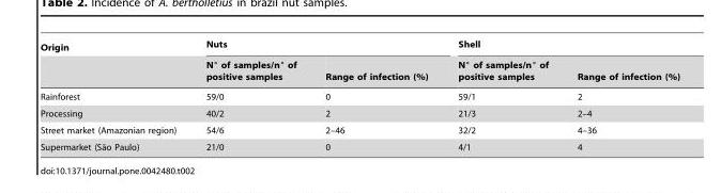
<table><thead><tr><td rowspan="2">Origin</td><td colspan="2">Nuts</td><td colspan="2">Shell</td></tr><tr><td>N° of samples/n° of positive samples</td><td>Range of infection (%)</td><td>N° of samples/n° of positive samples</td><td>Range of infection (%)</td></tr></thead><tbody><tr><td>Rainforest</td><td>59/0</td><td>0</td><td>59/1</td><td>2</td></tr><tr><td>Processing</td><td>40/2</td><td>2</td><td>21/3</td><td>2–4</td></tr><tr><td>Street market (Amazonian region)</td><td>54/6</td><td>2–46</td><td>32/2</td><td>4–36</td></tr><tr><td>Supermarket (Sa˜o Paulo)</td><td>21/0</td><td>0</td><td>4/1</td><td>4</td></tr></tbody></table>